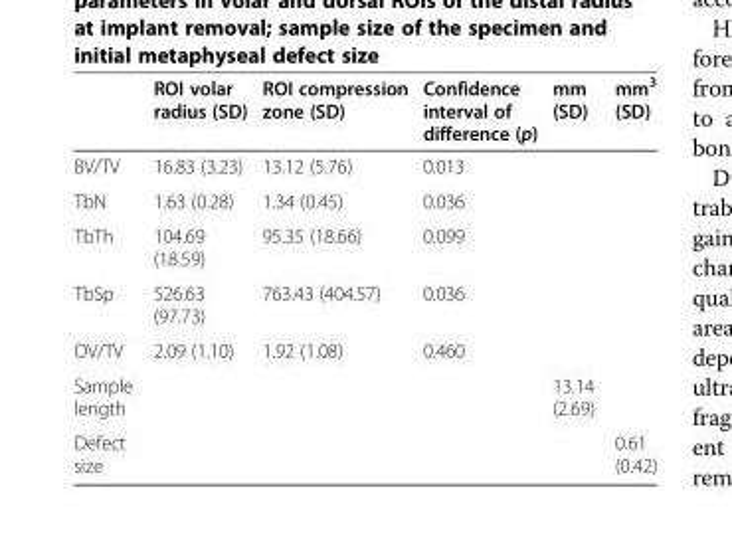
<table><thead><tr><td></td><td>ROI volar radius (SD)</td><td>ROI compression zone (SD)</td><td>Confidence interval of difference (p)</td><td>mm (SD)</td><td>mm<sup>3</sup> (SD)</td></tr></thead><tbody><tr><td>BV/TV</td><td>16.83 (3.23)</td><td>13.12 (5.76)</td><td>0.013</td><td></td><td></td></tr><tr><td>TbN</td><td>1.63 (0.28)</td><td>1.34 (0.45)</td><td>0.036</td><td></td><td></td></tr><tr><td>TbTh</td><td>104.69 (18.59)</td><td>95.35 (18.66)</td><td>0.099</td><td></td><td></td></tr><tr><td>TbSp</td><td>526.63 (97.73)</td><td>763.43 (404.57)</td><td>0.036</td><td></td><td></td></tr><tr><td>OV/TV</td><td>2.09 (1.10)</td><td>1.92 (1.08)</td><td>0.460</td><td></td><td></td></tr><tr><td>Sample length</td><td></td><td></td><td></td><td>13.14 (2.69)</td><td></td></tr><tr><td>Defect size</td><td></td><td></td><td></td><td></td><td>0.61 (0.42)</td></tr></tbody></table>